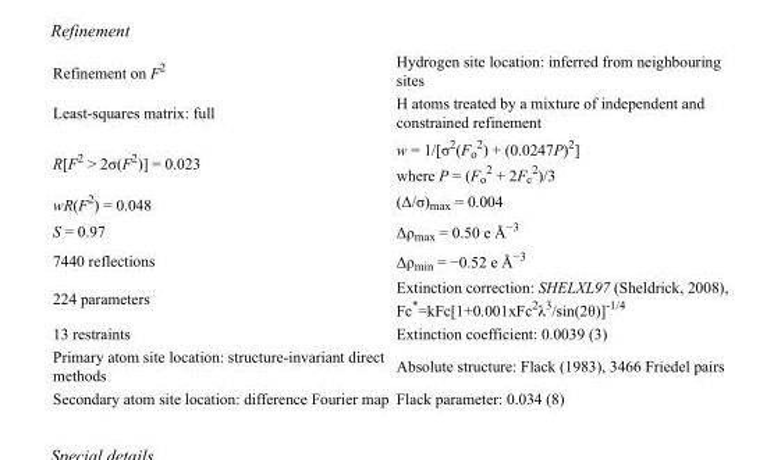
<table><tbody><tr><td>Refinement on F<sup>2</sup></td><td>Hydrogen site location: inferred from neighbouring sites</td></tr><tr><td>Least-squares matrix: full</td><td>H atoms treated by a mixture of independent and constrained refinement</td></tr><tr><td>R[F<sup>2</sup> &gt; 2σ(F<sup>2</sup>)] = 0.023</td><td>w = 1/[σ<sup>2</sup>(F<sub>o</sub> <sup>2</sup>) + (0.0247P)<sup>2</sup>] where P = (F<sub>o</sub> <sup>2</sup> + 2F<sub>c</sub> <sup>2</sup>)/3</td></tr><tr><td>wR(F<sup>2</sup>) = 0.048</td><td>(Δ/σ)<sub>max</sub> = 0.004</td></tr><tr><td>S = 0.97</td><td>Δρ<sub>max</sub> = 0.50 e Å<sup>−3</sup></td></tr><tr><td>7440 reflections</td><td>Δρ<sub>min</sub> = −0.52 e Å<sup>−3</sup></td></tr><tr><td>224 parameters</td><td>Extinction correction: SHELXL97 (Sheldrick, 2008), Fc*=kFc[1+0.001xFc<sup>2</sup>λ<sup>3</sup>/sin(2θ)]<sup>-1/4</sup></td></tr><tr><td>13 restraints</td><td>Extinction coefficient: 0.0039 (3)</td></tr><tr><td>Primary atom site location: structure-invariant direct methods</td><td>Absolute structure: Flack (1983), 3466 Friedel pairs</td></tr><tr><td>Secondary atom site location: difference Fourier map</td><td>Flack parameter: 0.034 (8)</td></tr></tbody></table>